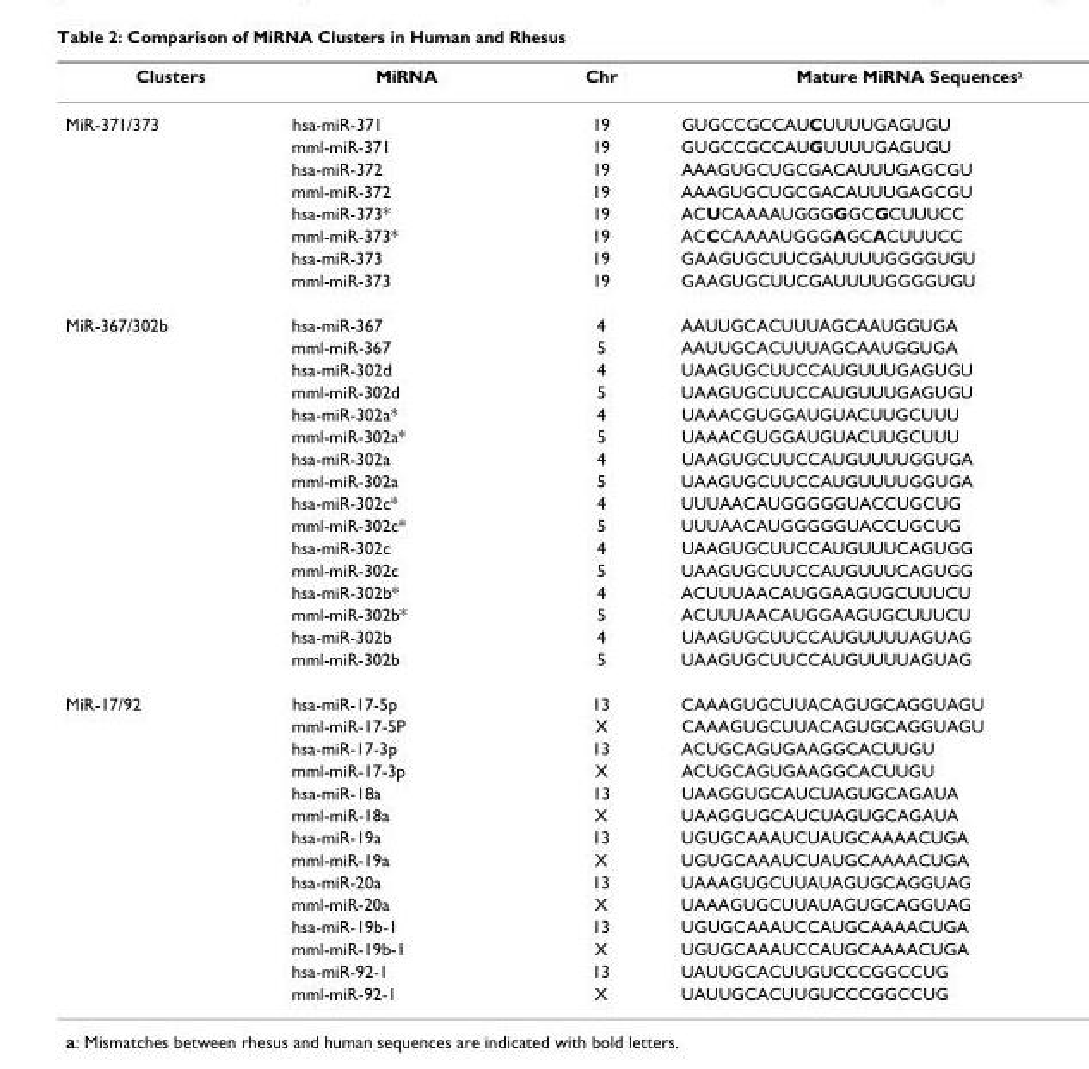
<table><thead><tr><td>Clusters</td><td>MiRNA</td><td>Chr</td><td>Mature MiRNA Sequences<sup>a</sup></td></tr></thead><tbody><tr><td rowspan="8">MiR-371/373</td><td>hsa-miR-371</td><td>19</td><td>GUGCCGCCAUCUUUUGAGUGU</td></tr><tr><td>mml-miR-371</td><td>19</td><td>GUGCCGCCAUGUUUUGAGUGU</td></tr><tr><td>hsa-miR-372</td><td>19</td><td>AAAGUGCUGCGACAUUUGAGCGU</td></tr><tr><td>mml-miR-372</td><td>19</td><td>AAAGUGCUGCGACAUUUGAGCGU</td></tr><tr><td>hsa-miR-373*</td><td>19</td><td>ACUCAAAAUGGGGGCGCUUUCC</td></tr><tr><td>mml-miR-373*</td><td>19</td><td>ACCCAAAAUGGGAGCACUUUCC</td></tr><tr><td>hsa-miR-373</td><td>19</td><td>GAAGUGCUUCGAUUUUGGGGUGU</td></tr><tr><td>mml-miR-373</td><td>19</td><td>GAAGUGCUUCGAUUUUGGGGUGU</td></tr><tr><td rowspan="16">MiR-367/302b</td><td>hsa-miR-367</td><td>4</td><td>AAUUGCACUUUAGCAAUGGUGA</td></tr><tr><td>mml-miR-367</td><td>5</td><td>AAUUGCACUUUAGCAAUGGUGA</td></tr><tr><td>hsa-miR-302d</td><td>4</td><td>UAAGUGCUUCCAUGUUUGAGUGU</td></tr><tr><td>mml-miR-302d</td><td>5</td><td>UAAGUGCUUCCAUGUUUGAGUGU</td></tr><tr><td>hsa-miR-302a*</td><td>4</td><td>UAAACGUGGAUGUACUUGCUUU</td></tr><tr><td>mml-miR-302a*</td><td>5</td><td>UAAACGUGGAUGUACUUGCUUU</td></tr><tr><td>hsa-miR-302a</td><td>4</td><td>UAAGUGCUUCCAUGUUUUGGUGA</td></tr><tr><td>mml-miR-302a</td><td>5</td><td>UAAGUGCUUCCAUGUUUUGGUGA</td></tr><tr><td>hsa-miR-302c*</td><td>4</td><td>UUUAACAUGGGGGUACCUGCUG</td></tr><tr><td>mml-miR-302c*</td><td>5</td><td>UUUAACAUGGGGGUACCUGCUG</td></tr><tr><td>hsa-miR-302c</td><td>4</td><td>UAAGUGCUUCCAUGUUUCAGUGG</td></tr><tr><td>mml-miR-302c</td><td>5</td><td>UAAGUGCUUCCAUGUUUCAGUGG</td></tr><tr><td>hsa-miR-302b*</td><td>4</td><td>ACUUUAACAUGGAAGUGCUUUCU</td></tr><tr><td>mml-miR-302b*</td><td>5</td><td>ACUUUAACAUGGAAGUGCUUUCU</td></tr><tr><td>hsa-miR-302b</td><td>4</td><td>UAAGUGCUUCCAUGUUUUAGUAG</td></tr><tr><td>mml-miR-302b</td><td>5</td><td>UAAGUGCUUCCAUGUUUUAGUAG</td></tr><tr><td rowspan="14">MiR-17/92</td><td>hsa-miR-17-5p</td><td>13</td><td>CAAAGUGCUUACAGUGCAGGUAGU</td></tr><tr><td>mml-miR-17-5P</td><td>X</td><td>CAAAGUGCUUACAGUGCAGGUAGU</td></tr><tr><td>hsa-miR-17-3p</td><td>13</td><td>ACUGCAGUGAAGGCACUUGU</td></tr><tr><td>mml-miR-17-3p</td><td>X</td><td>ACUGCAGUGAAGGCACUUGU</td></tr><tr><td>hsa-miR-18a</td><td>13</td><td>UAAGGUGCAUCUAGUGCAGAUA</td></tr><tr><td>mml-miR-18a</td><td>X</td><td>UAAGGUGCAUCUAGUGCAGAUA</td></tr><tr><td>hsa-miR-19a</td><td>13</td><td>UGUGCAAAUCUAUGCAAAACUGA</td></tr><tr><td>mml-miR-19a</td><td>X</td><td>UGUGCAAAUCUAUGCAAAACUGA</td></tr><tr><td>hsa-miR-20a</td><td>13</td><td>UAAAGUGCUUAUAGUGCAGGUAG</td></tr><tr><td>mml-miR-20a</td><td>X</td><td>UAAAGUGCUUAUAGUGCAGGUAG</td></tr><tr><td>hsa-miR-19b-1</td><td>13</td><td>UGUGCAAAUCCAUGCAAAACUGA</td></tr><tr><td>mml-miR-19b-1</td><td>X</td><td>UGUGCAAAUCCAUGCAAAACUGA</td></tr><tr><td>hsa-miR-92-1</td><td>13</td><td>UAUUGCACUUGUCCCGGCCUG</td></tr><tr><td>mml-miR-92-1</td><td>X</td><td>UAUUGCACUUGUCCCGGCCUG</td></tr></tbody></table>